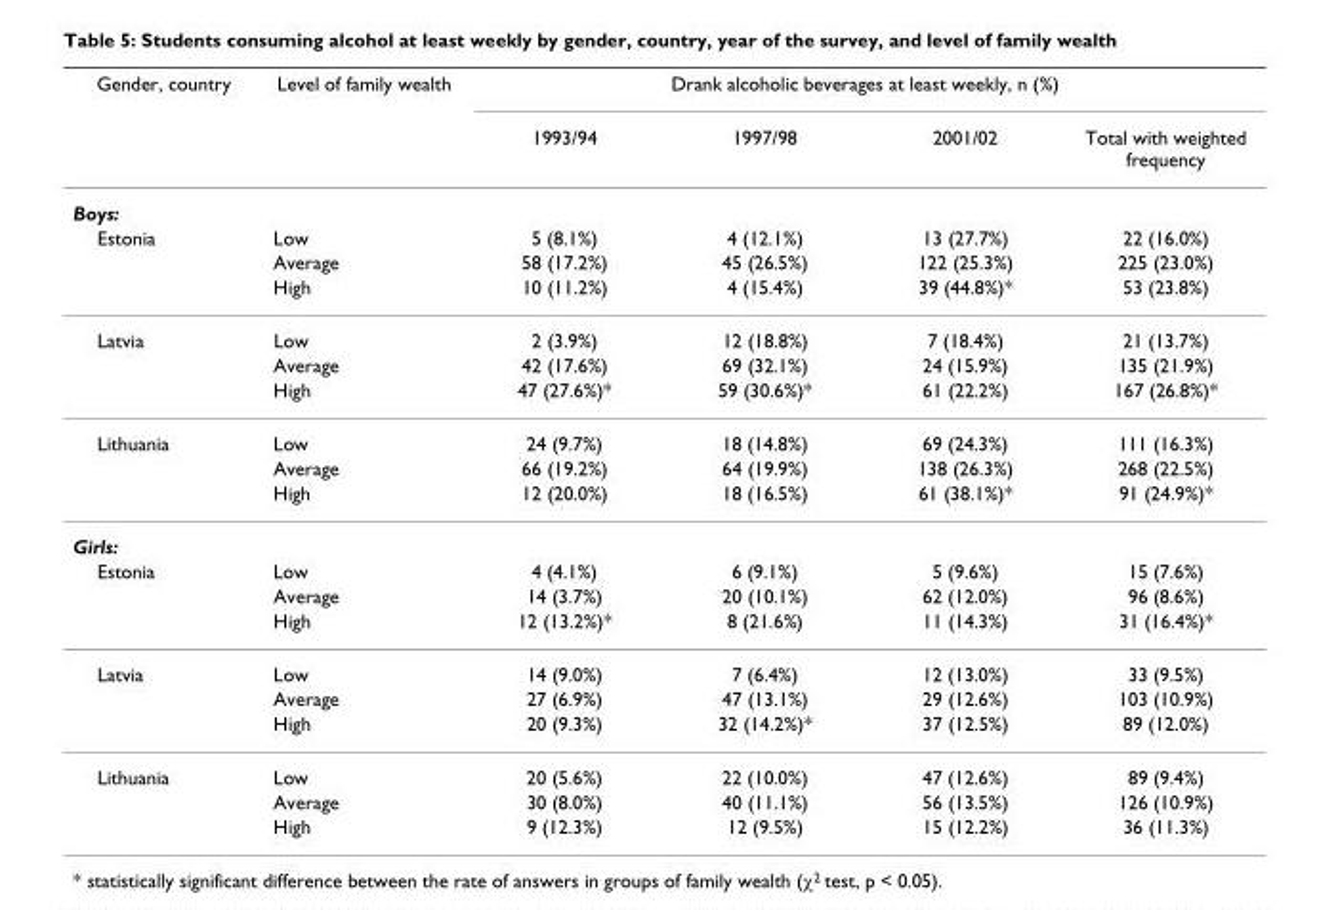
<table><thead><tr><td rowspan="2">Gender, country</td><td rowspan="2">Level of family wealth</td><td colspan="4">Drank alcoholic beverages at least weekly, n (%)</td></tr><tr><td>1993/94</td><td>1997/98</td><td>2001/02</td><td>Total with weighted frequency</td></tr></thead><tbody><tr><td colspan="6">Boys:</td></tr><tr><td rowspan="3">Estonia</td><td>Low</td><td>5 (8.1%)</td><td>4 (12.1%)</td><td>13 (27.7%)</td><td>22 (16.0%)</td></tr><tr><td>Average</td><td>58 (17.2%)</td><td>45 (26.5%)</td><td>122 (25.3%)</td><td>225 (23.0%)</td></tr><tr><td>High</td><td>10 (11.2%)</td><td>4 (15.4%)</td><td>39 (44.8%)*</td><td>53 (23.8%)</td></tr><tr><td rowspan="3">Latvia</td><td>Low</td><td>2 (3.9%)</td><td>12 (18.8%)</td><td>7 (18.4%)</td><td>21 (13.7%)</td></tr><tr><td>Average</td><td>42 (17.6%)</td><td>69 (32.1%)</td><td>24 (15.9%)</td><td>135 (21.9%)</td></tr><tr><td>High</td><td>47 (27.6%)*</td><td>59 (30.6%)*</td><td>61 (22.2%)</td><td>167 (26.8%)*</td></tr><tr><td rowspan="3">Lithuania</td><td>Low</td><td>24 (9.7%)</td><td>18 (14.8%)</td><td>69 (24.3%)</td><td>111 (16.3%)</td></tr><tr><td>Average</td><td>66 (19.2%)</td><td>64 (19.9%)</td><td>138 (26.3%)</td><td>268 (22.5%)</td></tr><tr><td>High</td><td>12 (20.0%)</td><td>18 (16.5%)</td><td>61 (38.1%)*</td><td>91 (24.9%)*</td></tr><tr><td colspan="6">Girls:</td></tr><tr><td rowspan="3">Estonia</td><td>Low</td><td>4 (4.1%)</td><td>6 (9.1%)</td><td>5 (9.6%)</td><td>15 (7.6%)</td></tr><tr><td>Average</td><td>14 (3.7%)</td><td>20 (10.1%)</td><td>62 (12.0%)</td><td>96 (8.6%)</td></tr><tr><td>High</td><td>12 (13.2%)*</td><td>8 (21.6%)</td><td>11 (14.3%)</td><td>31 (16.4%)*</td></tr><tr><td rowspan="3">Latvia</td><td>Low</td><td>14 (9.0%)</td><td>7 (6.4%)</td><td>12 (13.0%)</td><td>33 (9.5%)</td></tr><tr><td>Average</td><td>27 (6.9%)</td><td>47 (13.1%)</td><td>29 (12.6%)</td><td>103 (10.9%)</td></tr><tr><td>High</td><td>20 (9.3%)</td><td>32 (14.2%)*</td><td>37 (12.5%)</td><td>89 (12.0%)</td></tr><tr><td rowspan="3">Lithuania</td><td>Low</td><td>20 (5.6%)</td><td>22 (10.0%)</td><td>47 (12.6%)</td><td>89 (9.4%)</td></tr><tr><td>Average</td><td>30 (8.0%)</td><td>40 (11.1%)</td><td>56 (13.5%)</td><td>126 (10.9%)</td></tr><tr><td>High</td><td>9 (12.3%)</td><td>12 (9.5%)</td><td>15 (12.2%)</td><td>36 (11.3%)</td></tr></tbody></table>